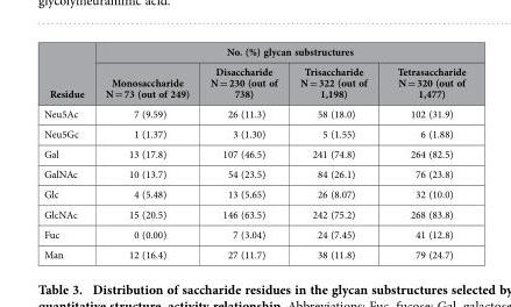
<table><thead><tr><td rowspan="2">Residue</td><td colspan="4">No. (%) glycan substructures</td></tr><tr><td>Monosaccharide N = 73 (out of 249)</td><td>Disaccharide N = 230 (out of 738)</td><td>Trisaccharide N = 322 (out of 1,198)</td><td>Tetrasaccharide N = 320 (out of 1,477)</td></tr></thead><tbody><tr><td>Neu5Ac</td><td>7 (9.59)</td><td>26 (11.3)</td><td>58 (18.0)</td><td>102 (31.9)</td></tr><tr><td>Neu5Gc</td><td>1 (1.37)</td><td>3 (1.30)</td><td>5 (1.55)</td><td>6 (1.88)</td></tr><tr><td>Gal</td><td>13 (17.8)</td><td>107 (46.5)</td><td>241 (74.8)</td><td>264 (82.5)</td></tr><tr><td>GalNAc</td><td>10 (13.7)</td><td>54 (23.5)</td><td>84 (26.1)</td><td>76 (23.8)</td></tr><tr><td>Glc</td><td>4 (5.48)</td><td>13 (5.65)</td><td>26 (8.07)</td><td>32 (10.0)</td></tr><tr><td>GlcNAc</td><td>15 (20.5)</td><td>146 (63.5)</td><td>242 (75.2)</td><td>268 (83.8)</td></tr><tr><td>Fuc</td><td>0 (0.00)</td><td>7 (3.04)</td><td>24 (7.45)</td><td>41 (12.8)</td></tr><tr><td>Man</td><td>12 (16.4)</td><td>27 (11.7)</td><td>38 (11.8)</td><td>79 (24.7)</td></tr></tbody></table>